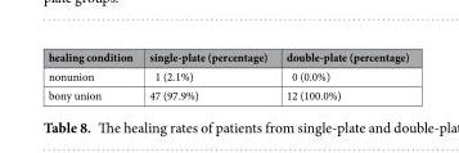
<table><thead><tr><td>healing condition</td><td>single-plate (percentage)</td><td>double-plate (percentage)</td></tr></thead><tbody><tr><td>nonunion</td><td>1 (2.1%)</td><td>0 (0.0%)</td></tr><tr><td>bony union</td><td>47 (97.9%)</td><td>12 (100.0%)</td></tr></tbody></table>